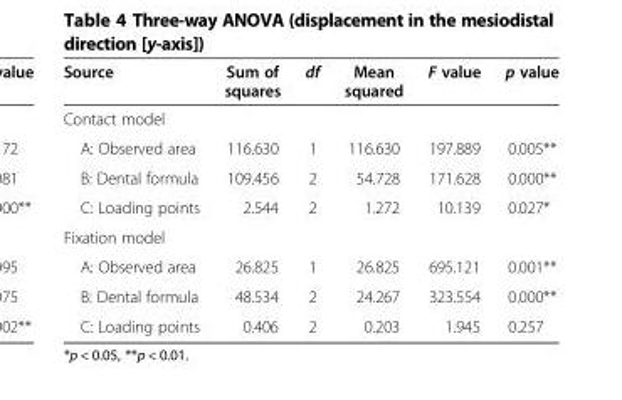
<table><thead><tr><td>Source</td><td>Sum of squares</td><td>df</td><td>Mean squared</td><td>F value</td><td>p value</td></tr></thead><tbody><tr><td colspan="6">Contact model</td></tr><tr><td>A: Observed area</td><td>116.630</td><td>1</td><td>116.630</td><td>197.889</td><td>0.005**</td></tr><tr><td>B: Dental formula</td><td>109.456</td><td>2</td><td>54.728</td><td>171.628</td><td>0.000**</td></tr><tr><td>C: Loading points</td><td>2.544</td><td>2</td><td>1.272</td><td>10.139</td><td>0.027*</td></tr><tr><td colspan="6">Fixation model</td></tr><tr><td>A: Observed area</td><td>26.825</td><td>1</td><td>26.825</td><td>695.121</td><td>0.001**</td></tr><tr><td>B: Dental formula</td><td>48.534</td><td>2</td><td>24.267</td><td>323.554</td><td>0.000**</td></tr><tr><td>C: Loading points</td><td>0.406</td><td>2</td><td>0.203</td><td>1.945</td><td>0.257</td></tr></tbody></table>